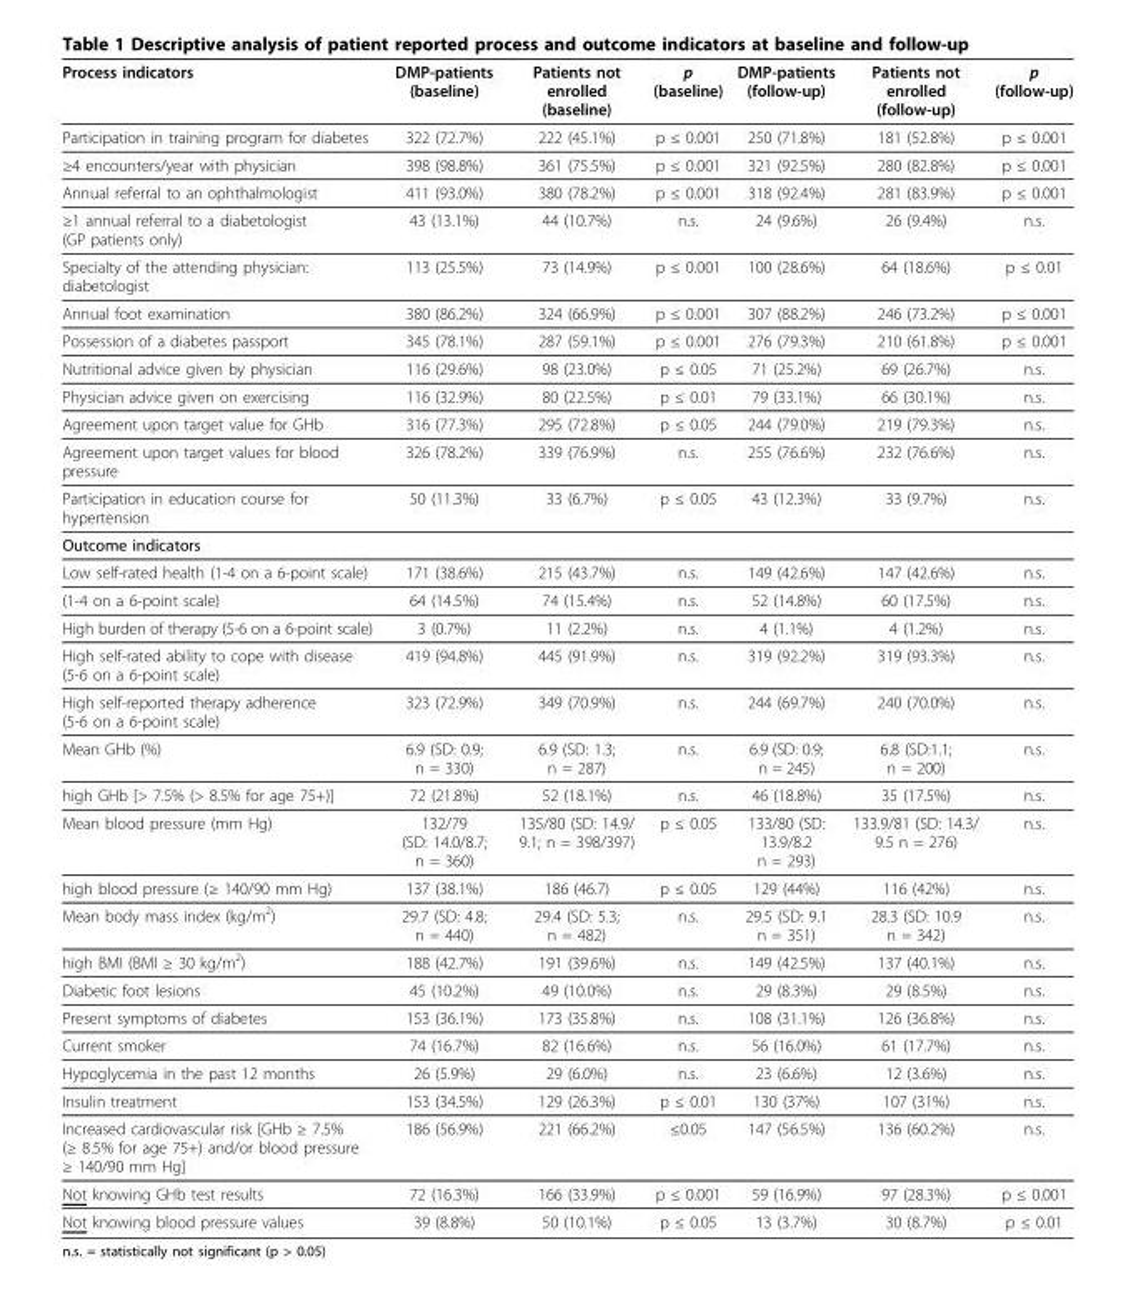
<table><thead><tr><td>Process indicators</td><td>DMP-patients (baseline)</td><td>Patients not enrolled (baseline)</td><td>p (baseline)</td><td>DMP-patients (follow-up)</td><td>Patients not enrolled (follow-up)</td><td>p (follow-up)</td></tr></thead><tbody><tr><td>Participation in training program for diabetes</td><td>322 (72.7%)</td><td>222 (45.1%)</td><td>p ≤ 0.001</td><td>250 (71.8%)</td><td>181 (52.8%)</td><td>p ≤ 0.001</td></tr><tr><td>≥4 encounters/year with physician</td><td>398 (98.8%)</td><td>361 (75.5%)</td><td>p ≤ 0.001</td><td>321 (92.5%)</td><td>280 (82.8%)</td><td>p ≤ 0.001</td></tr><tr><td>Annual referral to an ophthalmologist</td><td>411 (93.0%)</td><td>380 (78.2%)</td><td>p ≤ 0.001</td><td>318 (92.4%)</td><td>281 (83.9%)</td><td>p ≤ 0.001</td></tr><tr><td>≥1 annual referral to a diabetologist (GP patients only)</td><td>43 (13.1%)</td><td>44 (10.7%)</td><td>n.s.</td><td>24 (9.6%)</td><td>26 (9.4%)</td><td>n.s.</td></tr><tr><td>Specialty of the attending physician: diabetologist</td><td>113 (25.5%)</td><td>73 (14.9%)</td><td>p ≤ 0.001</td><td>100 (28.6%)</td><td>64 (18.6%)</td><td>p ≤ 0.01</td></tr><tr><td>Annual foot examination</td><td>380 (86.2%)</td><td>324 (66.9%)</td><td>p ≤ 0.001</td><td>307 (88.2%)</td><td>246 (73.2%)</td><td>p ≤ 0.001</td></tr><tr><td>Possession of a diabetes passport</td><td>345 (78.1%)</td><td>287 (59.1%)</td><td>p ≤ 0.001</td><td>276 (79.3%)</td><td>210 (61.8%)</td><td>p ≤ 0.001</td></tr><tr><td>Nutritional advice given by physician</td><td>116 (29.6%)</td><td>98 (23.0%)</td><td>p ≤ 0.05</td><td>71 (25.2%)</td><td>69 (26.7%)</td><td>n.s.</td></tr><tr><td>Physician advice given on exercising</td><td>116 (32.9%)</td><td>80 (22.5%)</td><td>p ≤ 0.01</td><td>79 (33.1%)</td><td>66 (30.1%)</td><td>n.s.</td></tr><tr><td>Agreement upon target value for GHb</td><td>316 (77.3%)</td><td>295 (72.8%)</td><td>p ≤ 0.05</td><td>244 (79.0%)</td><td>219 (79.3%)</td><td>n.s.</td></tr><tr><td>Agreement upon target values for blood pressure</td><td>326 (78.2%)</td><td>339 (76.9%)</td><td>n.s.</td><td>255 (76.6%)</td><td>232 (76.6%)</td><td>n.s.</td></tr><tr><td>Participation in education course for hypertension</td><td>50 (11.3%)</td><td>33 (6.7%)</td><td>p ≤ 0.05</td><td>43 (12.3%)</td><td>33 (9.7%)</td><td>n.s.</td></tr><tr><td colspan="7">Outcome indicators</td></tr><tr><td>Low self-rated health (1-4 on a 6-point scale)</td><td>171 (38.6%)</td><td>215 (43.7%)</td><td>n.s.</td><td>149 (42.6%)</td><td>147 (42.6%)</td><td>n.s.</td></tr><tr><td>(1-4 on a 6-point scale)</td><td>64 (14.5%)</td><td>74 (15.4%)</td><td>n.s.</td><td>52 (14.8%)</td><td>60 (17.5%)</td><td>n.s.</td></tr><tr><td>High burden of therapy (5-6 on a 6-point scale)</td><td>3 (0.7%)</td><td>11 (2.2%)</td><td>n.s.</td><td>4 (1.1%)</td><td>4 (1.2%)</td><td>n.s.</td></tr><tr><td>High self-rated ability to cope with disease (5-6 on a 6-point scale)</td><td>419 (94.8%)</td><td>445 (91.9%)</td><td>n.s.</td><td>319 (92.2%)</td><td>319 (93.3%)</td><td>n.s.</td></tr><tr><td>High self-reported therapy adherence (5-6 on a 6-point scale)</td><td>323 (72.9%)</td><td>349 (70.9%)</td><td>n.s.</td><td>244 (69.7%)</td><td>240 (70.0%)</td><td>n.s.</td></tr><tr><td>Mean GHb (%)</td><td>6.9 (SD: 0.9; n = 330)</td><td>6.9 (SD: 1.3; n = 287)</td><td>n.s.</td><td>6.9 (SD: 0.9; n = 245)</td><td>6.8 (SD:1.1; n = 200)</td><td>n.s.</td></tr><tr><td>high GHb [&gt; 7.5% (&gt; 8.5% for age 75+)]</td><td>72 (21.8%)</td><td>52 (18.1%)</td><td>n.s.</td><td>46 (18.8%)</td><td>35 (17.5%)</td><td>n.s.</td></tr><tr><td>Mean blood pressure (mm Hg)</td><td>132/79 (SD: 14.0/8.7; n = 360)</td><td>135/80 (SD: 14.9/ 9.1; n = 398/397)</td><td>p ≤ 0.05</td><td>133/80 (SD: 13.9/8.2 n = 293)</td><td>133.9/81 (SD: 14.3/ 9.5 n = 276)</td><td>n.s.</td></tr><tr><td>high blood pressure (≥ 140/90 mm Hg)</td><td>137 (38.1%)</td><td>186 (46.7)</td><td>p ≤ 0.05</td><td>129 (44%)</td><td>116 (42%)</td><td>n.s.</td></tr><tr><td>Mean body mass index (kg/m<sup>2</sup>)</td><td>29.7 (SD: 4.8; n = 440)</td><td>29.4 (SD: 5.3; n = 482)</td><td>n.s.</td><td>29.5 (SD: 9.1 n = 351)</td><td>28.3 (SD: 10.9 n = 342)</td><td>n.s.</td></tr><tr><td>high BMI (BMI ≥ 30 kg/m<sup>2</sup>)</td><td>188 (42.7%)</td><td>191 (39.6%)</td><td>n.s.</td><td>149 (42.5%)</td><td>137 (40.1%)</td><td>n.s.</td></tr><tr><td>Diabetic foot lesions</td><td>45 (10.2%)</td><td>49 (10.0%)</td><td>n.s.</td><td>29 (8.3%)</td><td>29 (8.5%)</td><td>n.s.</td></tr><tr><td>Present symptoms of diabetes</td><td>153 (36.1%)</td><td>173 (35.8%)</td><td>n.s.</td><td>108 (31.1%)</td><td>126 (36.8%)</td><td>n.s.</td></tr><tr><td>Current smoker</td><td>74 (16.7%)</td><td>82 (16.6%)</td><td>n.s.</td><td>56 (16.0%)</td><td>61 (17.7%)</td><td>n.s.</td></tr><tr><td>Hypoglycemia in the past 12 months</td><td>26 (5.9%)</td><td>29 (6.0%)</td><td>n.s.</td><td>23 (6.6%)</td><td>12 (3.6%)</td><td>n.s.</td></tr><tr><td>Insulin treatment</td><td>153 (34.5%)</td><td>129 (26.3%)</td><td>p ≤ 0.01</td><td>130 (37%)</td><td>107 (31%)</td><td>n.s.</td></tr><tr><td>Increased cardiovascular risk [GHb ≥ 7.5% (≥ 8.5% for age 75+) and/or blood pressure ≥ 140/90 mm Hg]</td><td>186 (56.9%)</td><td>221 (66.2%)</td><td>≤0.05</td><td>147 (56.5%)</td><td>136 (60.2%)</td><td>n.s.</td></tr><tr><td>Not knowing GHb test results</td><td>72 (16.3%)</td><td>166 (33.9%)</td><td>p ≤ 0.001</td><td>59 (16.9%)</td><td>97 (28.3%)</td><td>p ≤ 0.001</td></tr><tr><td>Not knowing blood pressure values</td><td>39 (8.8%)</td><td>50 (10.1%)</td><td>p ≤ 0.05</td><td>13 (3.7%)</td><td>30 (8.7%)</td><td>p ≤ 0.01</td></tr></tbody></table>